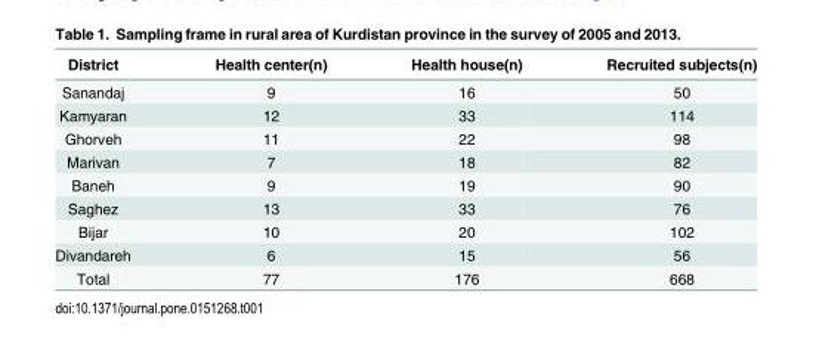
<table><thead><tr><td>District</td><td>Health center(n)</td><td>Health house(n)</td><td>Recruited subjects(n)</td></tr></thead><tbody><tr><td>Sanandaj</td><td>9</td><td>16</td><td>50</td></tr><tr><td>Kamyaran</td><td>12</td><td>33</td><td>114</td></tr><tr><td>Ghorveh</td><td>11</td><td>22</td><td>98</td></tr><tr><td>Marivan</td><td>7</td><td>18</td><td>82</td></tr><tr><td>Baneh</td><td>9</td><td>19</td><td>90</td></tr><tr><td>Saghez</td><td>13</td><td>33</td><td>76</td></tr><tr><td>Bijar</td><td>10</td><td>20</td><td>102</td></tr><tr><td>Divandareh</td><td>6</td><td>15</td><td>56</td></tr><tr><td>Total</td><td>77</td><td>176</td><td>668</td></tr></tbody></table>